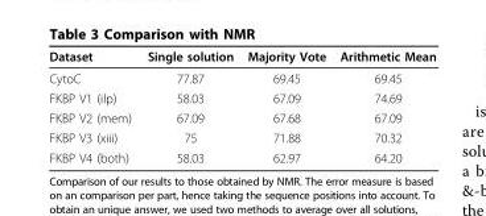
<table><thead><tr><td>Dataset</td><td>Single solution</td><td>Majority Vote</td><td>Arithmetic Mean</td></tr></thead><tbody><tr><td>CytoC</td><td>77.87</td><td>69.45</td><td>69.45</td></tr><tr><td>FKBP V1 (ilp)</td><td>58.03</td><td>67.09</td><td>74.69</td></tr><tr><td>FKBP V2 (mem)</td><td>67.09</td><td>67.68</td><td>67.09</td></tr><tr><td>FKBP V3 (xiii)</td><td>75</td><td>71.88</td><td>70.32</td></tr><tr><td>FKBP V4 (both)</td><td>58.03</td><td>62.97</td><td>64.20</td></tr></tbody></table>